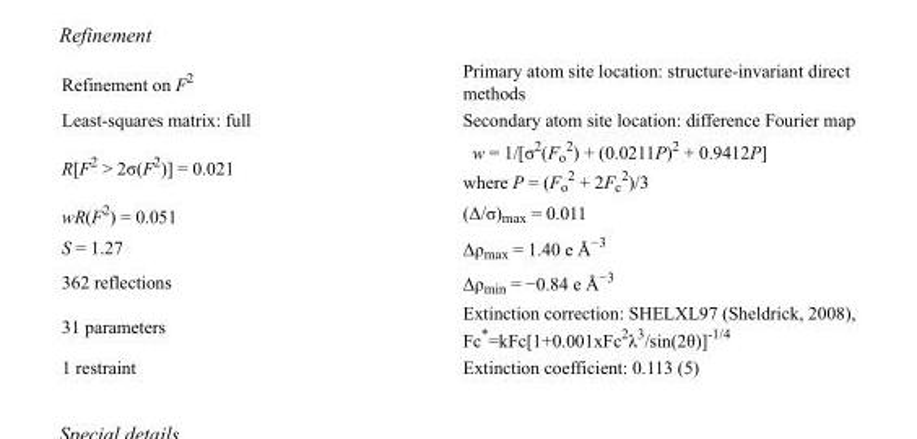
<table><tbody><tr><td>Refinement on F<sup>2</sup></td><td>Primary atom site location: structure-invariant direct methods</td></tr><tr><td>Least-squares matrix: full</td><td>Secondary atom site location: difference Fourier map</td></tr><tr><td>R[F<sup>2</sup> &gt; 2σ(F<sup>2</sup>)] = 0.021</td><td>w = 1/[σ<sup>2</sup>(F<sub>o</sub> <sup>2</sup>) + (0.0211P)<sup>2</sup> + 0.9412P] where P = (F<sub>o</sub> <sup>2</sup> + 2F<sub>c</sub> <sup>2</sup>)/3</td></tr><tr><td>wR(F<sup>2</sup>) = 0.051</td><td>(Δ/σ)<sub>max</sub> = 0.011</td></tr><tr><td>S = 1.27</td><td>Δρ<sub>max</sub> = 1.40 e Å<sup>−3</sup></td></tr><tr><td>362 reflections</td><td>Δρ<sub>min</sub> = −0.84 e Å<sup>−3</sup></td></tr><tr><td>31 parameters</td><td>Extinction correction: SHELXL97 (Sheldrick, 2008), Fc*=kFc[1+0.001xFc<sup>2</sup>λ<sup>3</sup>/sin(2θ)]<sup>-1/4</sup></td></tr><tr><td>1 restraint</td><td>Extinction coefficient: 0.113 (5)</td></tr></tbody></table>